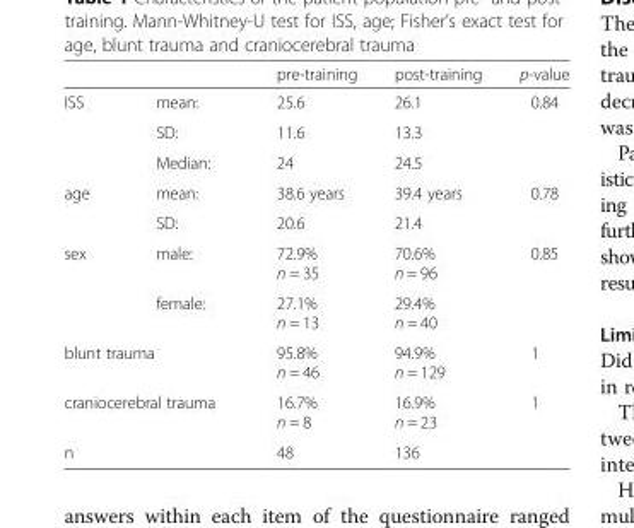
<table><thead><tr><td></td><td></td><td>pre-training</td><td>post-training</td><td>p-value</td></tr></thead><tbody><tr><td rowspan="3">ISS</td><td>mean:</td><td>25.6</td><td>26.1</td><td>0.84</td></tr><tr><td>SD:</td><td>11.6</td><td>13.3</td><td></td></tr><tr><td>Median:</td><td>24</td><td>24.5</td><td></td></tr><tr><td rowspan="2">age</td><td>mean:</td><td>38.6 years</td><td>39.4 years</td><td>0.78</td></tr><tr><td>SD:</td><td>20.6</td><td>21.4</td><td></td></tr><tr><td rowspan="2">sex</td><td>male:</td><td>72.9% n = 35</td><td>70.6% n = 96</td><td>0.85</td></tr><tr><td>female:</td><td>27.1% n = 13</td><td>29.4% n = 40</td><td></td></tr><tr><td colspan="2">blunt trauma</td><td>95.8% n = 46</td><td>94.9% n = 129</td><td>1</td></tr><tr><td colspan="2">craniocerebral trauma</td><td>16.7% n = 8</td><td>16.9% n = 23</td><td>1</td></tr><tr><td colspan="2">n</td><td>48</td><td>136</td><td></td></tr></tbody></table>